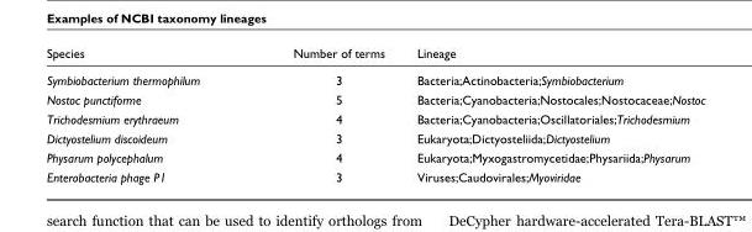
<table><thead><tr><td>Species</td><td>Number of terms</td><td>Lineage</td></tr></thead><tbody><tr><td>Symbiobacterium thermophilum</td><td>3</td><td>Bacteria;Actinobacteria;Symbiobacterium</td></tr><tr><td>Nostoc punctiforme</td><td>5</td><td>Bacteria;Cyanobacteria;Nostocales;Nostocaceae;Nostoc</td></tr><tr><td>Trichodesmium erythraeum</td><td>4</td><td>Bacteria;Cyanobacteria;Oscillatoriales;Trichodesmium</td></tr><tr><td>Dictyostelium discoideum</td><td>3</td><td>Eukaryota;Dictyosteliida;Dictyostelium</td></tr><tr><td>Physarum polycephalum</td><td>4</td><td>Eukaryota;Myxogastromycetidae;Physariida;Physarum</td></tr><tr><td>Enterobacteria phage P1</td><td>3</td><td>Viruses;Caudovirales;Myoviridae</td></tr></tbody></table>